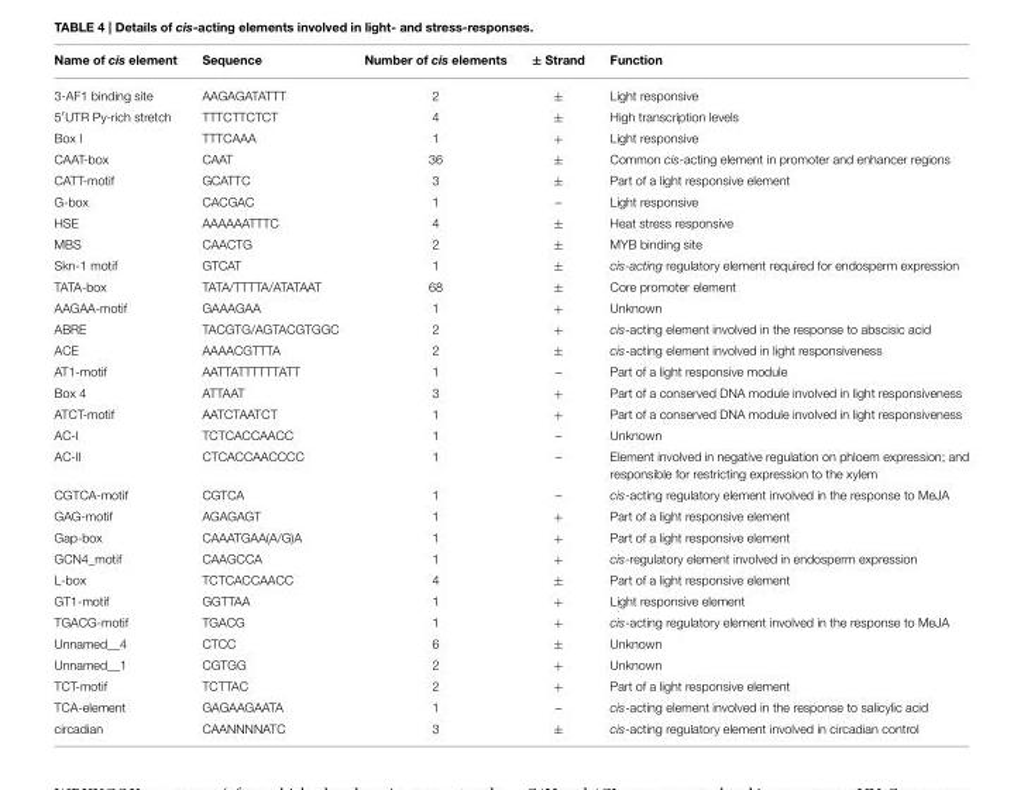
<table><thead><tr><td>Name of cis element</td><td>Sequence</td><td>Number of cis elements</td><td>± Strand</td><td>Function</td></tr></thead><tbody><tr><td>3-AF1 binding site</td><td>AAGAGATATTT</td><td>2</td><td>±</td><td>Light responsive</td></tr><tr><td>5′UTR Py-rich stretch</td><td>TTTCTTCTCT</td><td>4</td><td>±</td><td>High transcription levels</td></tr><tr><td>Box I</td><td>TTTCAAA</td><td>1</td><td>+</td><td>Light responsive</td></tr><tr><td>CAAT-box</td><td>CAAT</td><td>36</td><td>±</td><td>Common cis-acting element in promoter and enhancer regions</td></tr><tr><td>CATT-motif</td><td>GCATTC</td><td>3</td><td>±</td><td>Part of a light responsive element</td></tr><tr><td>G-box</td><td>CACGAC</td><td>1</td><td>–</td><td>Light responsive</td></tr><tr><td>HSE</td><td>AAAAAATTTC</td><td>4</td><td>±</td><td>Heat stress responsive</td></tr><tr><td>MBS</td><td>CAACTG</td><td>2</td><td>±</td><td>MYB binding site</td></tr><tr><td>Skn-1 motif</td><td>GTCAT</td><td>1</td><td>±</td><td>cis-acting regulatory element required for endosperm expression</td></tr><tr><td>TATA-box</td><td>TATA/TTTTA/ATATAAT</td><td>68</td><td>±</td><td>Core promoter element</td></tr><tr><td>AAGAA-motif</td><td>GAAAGAA</td><td>1</td><td>+</td><td>Unknown</td></tr><tr><td>ABRE</td><td>TACGTG/AGTACGTGGC</td><td>2</td><td>+</td><td>cis-acting element involved in the response to abscisic acid</td></tr><tr><td>ACE</td><td>AAAACGTTTA</td><td>2</td><td>±</td><td>cis-acting element involved in light responsiveness</td></tr><tr><td>AT1-motif</td><td>AATTATTTTTTATT</td><td>1</td><td>–</td><td>Part of a light responsive module</td></tr><tr><td>Box 4</td><td>ATTAAT</td><td>3</td><td>+</td><td>Part of a conserved DNA module involved in light responsiveness</td></tr><tr><td>ATCT-motif</td><td>AATCTAATCT</td><td>1</td><td>+</td><td>Part of a conserved DNA module involved in light responsiveness</td></tr><tr><td>AC-I</td><td>TCTCACCAACC</td><td>1</td><td>–</td><td>Unknown</td></tr><tr><td>AC-II</td><td>CTCACCAACCCC</td><td>1</td><td>–</td><td>Element involved in negative regulation on phloem expression; and responsible for restricting expression to the xylem</td></tr><tr><td>CGTCA-motif</td><td>CGTCA</td><td>1</td><td>–</td><td>cis-acting regulatory element involved in the response to MeJA</td></tr><tr><td>GAG-motif</td><td>AGAGAGT</td><td>1</td><td>+</td><td>Part of a light responsive element</td></tr><tr><td>Gap-box</td><td>CAAATGAA(A/G)A</td><td>1</td><td>+</td><td>Part of a light responsive element</td></tr><tr><td>GCN4_motif</td><td>CAAGCCA</td><td>1</td><td>+</td><td>cis-regulatory element involved in endosperm expression</td></tr><tr><td>L-box</td><td>TCTCACCAACC</td><td>4</td><td>±</td><td>Part of a light responsive element</td></tr><tr><td>GT1-motif</td><td>GGTTAA</td><td>1</td><td>+</td><td>Light responsive element</td></tr><tr><td>TGACG-motif</td><td>TGACG</td><td>1</td><td>+</td><td>cis-acting regulatory element involved in the response to MeJA</td></tr><tr><td>Unnamed__4</td><td>CTCC</td><td>6</td><td>±</td><td>Unknown</td></tr><tr><td>Unnamed__1</td><td>CGTGG</td><td>2</td><td>+</td><td>Unknown</td></tr><tr><td>TCT-motif</td><td>TCTTAC</td><td>2</td><td>+</td><td>Part of a light responsive element</td></tr><tr><td>TCA-element</td><td>GAGAAGAATA</td><td>1</td><td>–</td><td>cis-acting element involved in the response to salicylic acid</td></tr><tr><td>circadian</td><td>CAANNNNATC</td><td>3</td><td>±</td><td>cis-acting regulatory element involved in circadian control</td></tr></tbody></table>